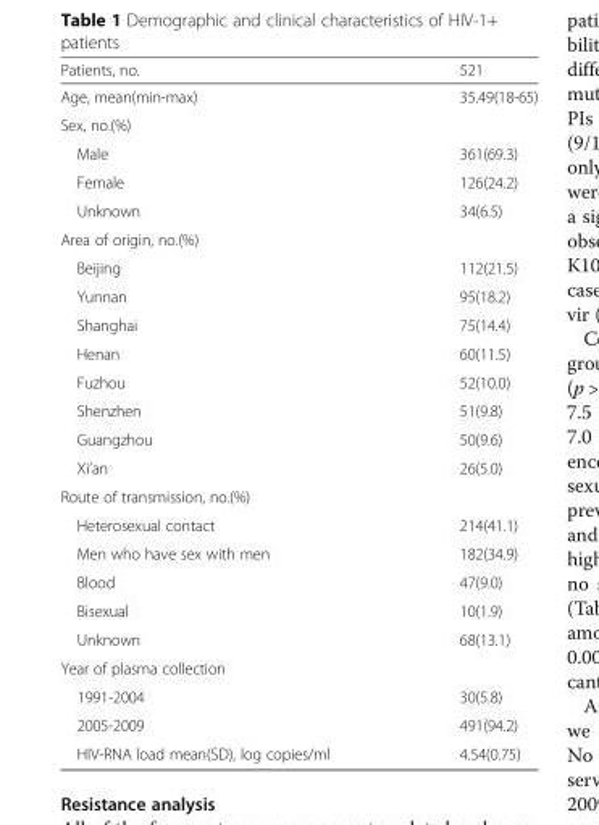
<table><thead><tr><td>Patients, no.</td><td>521</td></tr></thead><tbody><tr><td>Age, mean(min-max)</td><td>35.49(18-65)</td></tr><tr><td colspan="2">Sex, no.(%)</td></tr><tr><td>Male</td><td>361(69.3)</td></tr><tr><td>Female</td><td>126(24.2)</td></tr><tr><td>Unknown</td><td>34(6.5)</td></tr><tr><td colspan="2">Area of origin, no.(%)</td></tr><tr><td>Beijing</td><td>112(21.5)</td></tr><tr><td>Yunnan</td><td>95(18.2)</td></tr><tr><td>Shanghai</td><td>75(14.4)</td></tr><tr><td>Henan</td><td>60(11.5)</td></tr><tr><td>Fuzhou</td><td>52(10.0)</td></tr><tr><td>Shenzhen</td><td>51(9.8)</td></tr><tr><td>Guangzhou</td><td>50(9.6)</td></tr><tr><td>Xi’an</td><td>26(5.0)</td></tr><tr><td colspan="2">Route of transmission, no.(%)</td></tr><tr><td>Heterosexual contact</td><td>214(41.1)</td></tr><tr><td>Men who have sex with men</td><td>182(34.9)</td></tr><tr><td>Blood</td><td>47(9.0)</td></tr><tr><td>Bisexual</td><td>10(1.9)</td></tr><tr><td>Unknown</td><td>68(13.1)</td></tr><tr><td colspan="2">Year of plasma collection</td></tr><tr><td>1991-2004</td><td>30(5.8)</td></tr><tr><td>2005-2009</td><td>491(94.2)</td></tr><tr><td>HIV-RNA load mean(SD), log copies/ml</td><td>4.54(0.75)</td></tr></tbody></table>